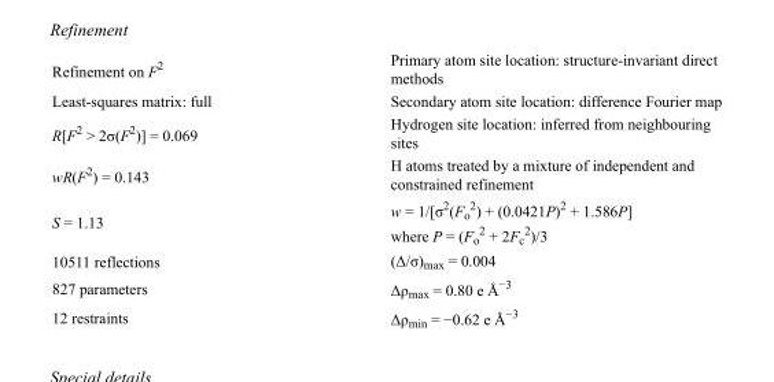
<table><tbody><tr><td>Refinement on F<sup>2</sup></td><td>Primary atom site location: structure-invariant direct methods</td></tr><tr><td>Least-squares matrix: full</td><td>Secondary atom site location: difference Fourier map</td></tr><tr><td>R[F<sup>2</sup> &gt; 2σ(F<sup>2</sup>)] = 0.069</td><td>Hydrogen site location: inferred from neighbouring sites</td></tr><tr><td>wR(F<sup>2</sup>) = 0.143</td><td>H atoms treated by a mixture of independent and constrained refinement</td></tr><tr><td>S = 1.13</td><td>w = 1/[σ<sup>2</sup>(F<sub>o</sub> <sup>2</sup>) + (0.0421P)<sup>2</sup> + 1.586P] where P = (F<sub>o</sub> <sup>2</sup> + 2F<sub>c</sub> <sup>2</sup>)/3</td></tr><tr><td>10511 reflections</td><td>(Δ/σ)<sub>max</sub> = 0.004</td></tr><tr><td>827 parameters</td><td>Δρ<sub>max</sub> = 0.80 e Å<sup>−3</sup></td></tr><tr><td>12 restraints</td><td>Δρ<sub>min</sub> = −0.62 e Å<sup>−3</sup></td></tr></tbody></table>